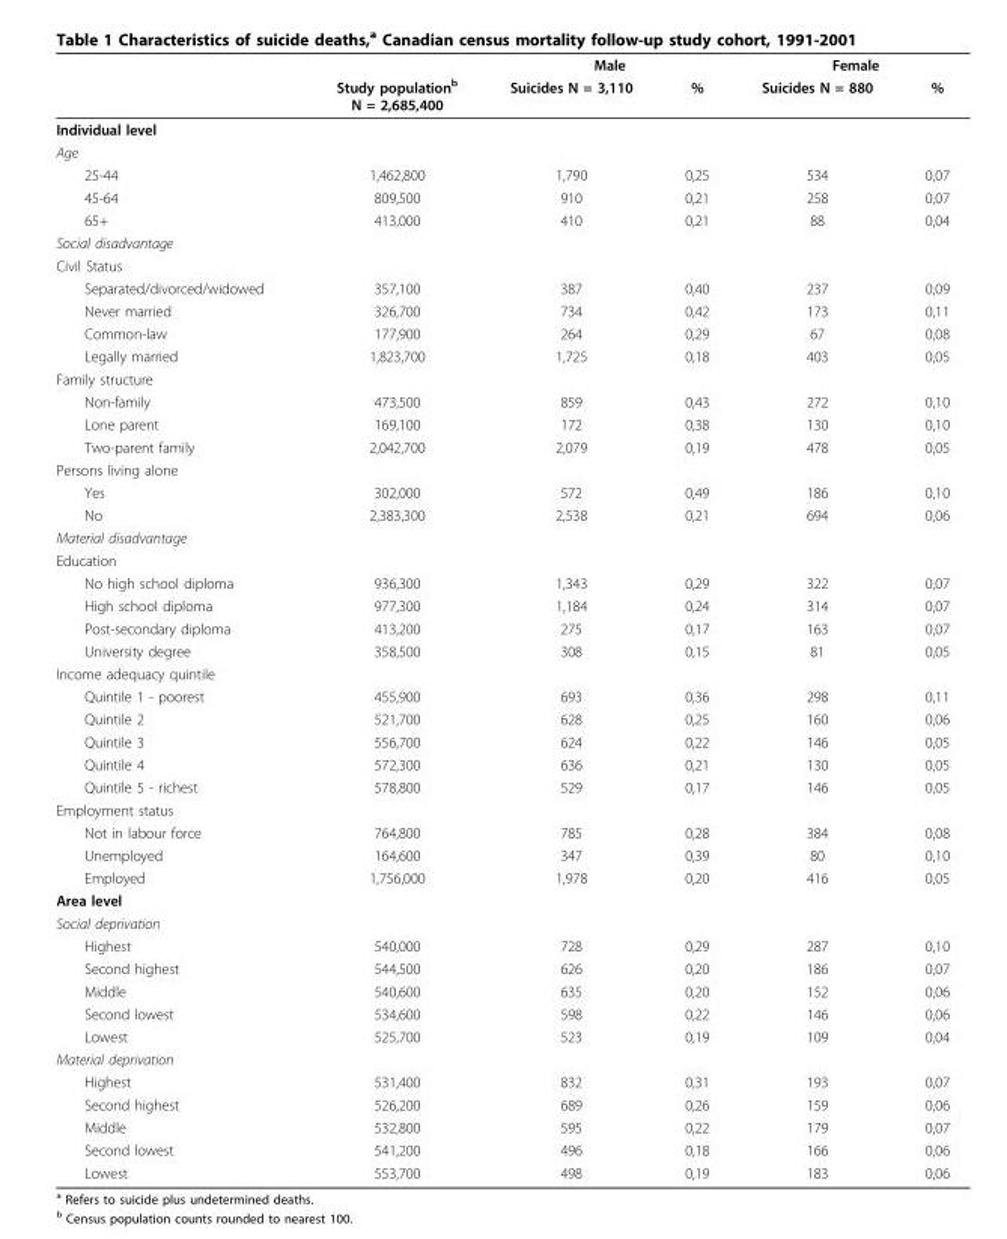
<table><thead><tr><td rowspan="2"></td><td rowspan="2">Study population<sup>b</sup> N = 2,685,400</td><td colspan="2">Male</td><td colspan="2">Female</td></tr><tr><td>Suicides N = 3,110</td><td>%</td><td>Suicides N = 880</td><td>%</td></tr></thead><tbody><tr><td colspan="6">Individual level</td></tr><tr><td colspan="6">Age</td></tr><tr><td>25-44</td><td>1,462,800</td><td>1,790</td><td>0,25</td><td>534</td><td>0,07</td></tr><tr><td>45-64</td><td>809,500</td><td>910</td><td>0,21</td><td>258</td><td>0,07</td></tr><tr><td>65+</td><td>413,000</td><td>410</td><td>0,21</td><td>88</td><td>0,04</td></tr><tr><td colspan="6">Social disadvantage</td></tr><tr><td colspan="6">Civil Status</td></tr><tr><td>Separated/divorced/widowed</td><td>357,100</td><td>387</td><td>0,40</td><td>237</td><td>0,09</td></tr><tr><td>Never married</td><td>326,700</td><td>734</td><td>0,42</td><td>173</td><td>0,11</td></tr><tr><td>Common-law</td><td>177,900</td><td>264</td><td>0,29</td><td>67</td><td>0,08</td></tr><tr><td>Legally married</td><td>1,823,700</td><td>1,725</td><td>0,18</td><td>403</td><td>0,05</td></tr><tr><td colspan="6">Family structure</td></tr><tr><td>Non-family</td><td>473,500</td><td>859</td><td>0,43</td><td>272</td><td>0,10</td></tr><tr><td>Lone parent</td><td>169,100</td><td>172</td><td>0,38</td><td>130</td><td>0,10</td></tr><tr><td>Two-parent family</td><td>2,042,700</td><td>2,079</td><td>0,19</td><td>478</td><td>0,05</td></tr><tr><td colspan="6">Persons living alone</td></tr><tr><td>Yes</td><td>302,000</td><td>572</td><td>0,49</td><td>186</td><td>0,10</td></tr><tr><td>No</td><td>2,383,300</td><td>2,538</td><td>0,21</td><td>694</td><td>0,06</td></tr><tr><td colspan="6">Material disadvantage</td></tr><tr><td colspan="6">Education</td></tr><tr><td>No high school diploma</td><td>936,300</td><td>1,343</td><td>0,29</td><td>322</td><td>0,07</td></tr><tr><td>High school diploma</td><td>977,300</td><td>1,184</td><td>0,24</td><td>314</td><td>0,07</td></tr><tr><td>Post-secondary diploma</td><td>413,200</td><td>275</td><td>0,17</td><td>163</td><td>0,07</td></tr><tr><td>University degree</td><td>358,500</td><td>308</td><td>0,15</td><td>81</td><td>0,05</td></tr><tr><td colspan="6">Income adequacy quintile</td></tr><tr><td>Quintile 1 - poorest</td><td>455,900</td><td>693</td><td>0,36</td><td>298</td><td>0,11</td></tr><tr><td>Quintile 2</td><td>521,700</td><td>628</td><td>0,25</td><td>160</td><td>0,06</td></tr><tr><td>Quintile 3</td><td>556,700</td><td>624</td><td>0,22</td><td>146</td><td>0,05</td></tr><tr><td>Quintile 4</td><td>572,300</td><td>636</td><td>0,21</td><td>130</td><td>0,05</td></tr><tr><td>Quintile 5 - richest</td><td>578,800</td><td>529</td><td>0,17</td><td>146</td><td>0,05</td></tr><tr><td colspan="6">Employment status</td></tr><tr><td>Not in labour force</td><td>764,800</td><td>785</td><td>0,28</td><td>384</td><td>0,08</td></tr><tr><td>Unemployed</td><td>164,600</td><td>347</td><td>0,39</td><td>80</td><td>0,10</td></tr><tr><td>Employed</td><td>1,756,000</td><td>1,978</td><td>0,20</td><td>416</td><td>0,05</td></tr><tr><td colspan="6">Area level</td></tr><tr><td colspan="6">Social deprivation</td></tr><tr><td>Highest</td><td>540,000</td><td>728</td><td>0,29</td><td>287</td><td>0,10</td></tr><tr><td>Second highest</td><td>544,500</td><td>626</td><td>0,20</td><td>186</td><td>0,07</td></tr><tr><td>Middle</td><td>540,600</td><td>635</td><td>0,20</td><td>152</td><td>0,06</td></tr><tr><td>Second lowest</td><td>534,600</td><td>598</td><td>0,22</td><td>146</td><td>0,06</td></tr><tr><td>Lowest</td><td>525,700</td><td>523</td><td>0,19</td><td>109</td><td>0,04</td></tr><tr><td colspan="6">Material deprivation</td></tr><tr><td>Highest</td><td>531,400</td><td>832</td><td>0,31</td><td>193</td><td>0,07</td></tr><tr><td>Second highest</td><td>526,200</td><td>689</td><td>0,26</td><td>159</td><td>0,06</td></tr><tr><td>Middle</td><td>532,800</td><td>595</td><td>0,22</td><td>179</td><td>0,07</td></tr><tr><td>Second lowest</td><td>541,200</td><td>496</td><td>0,18</td><td>166</td><td>0,06</td></tr><tr><td>Lowest</td><td>553,700</td><td>498</td><td>0,19</td><td>183</td><td>0,06</td></tr></tbody></table>